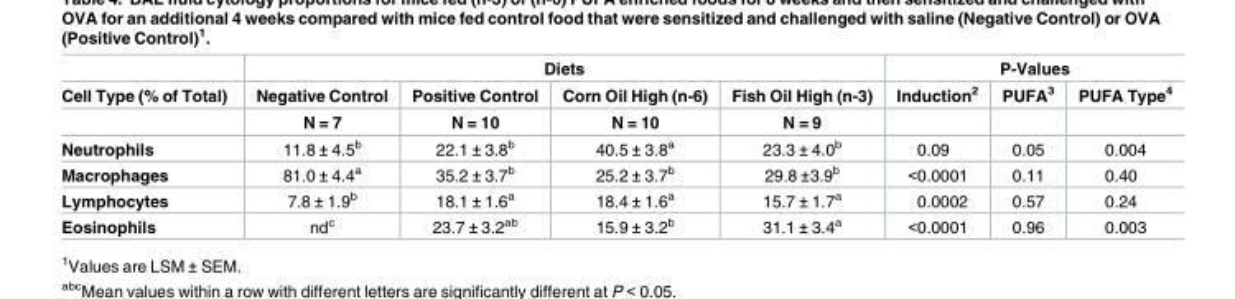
<table><thead><tr><td rowspan="3">Cell Type (% of Total)</td><td colspan="4">Diets</td><td colspan="3">P-Values</td></tr><tr><td rowspan="2">Negative Control N = 7</td><td rowspan="2">Positive Control N = 10</td><td rowspan="2">Corn Oil High (n-6) N = 10</td><td rowspan="2">Fish Oil High (n-3) N = 9</td><td rowspan="2">Induction<sup>2</sup></td><td rowspan="2">PUFA<sup>3</sup></td><td rowspan="2">PUFA Type<sup>4</sup></td></tr><tr></tr></thead><tbody><tr><td>Neutrophils</td><td>11.8 ± 4.5<sup>b</sup></td><td>22.1 ± 3.8<sup>b</sup></td><td>40.5 ± 3.8<sup>a</sup></td><td>23.3 ± 4.0<sup>b</sup></td><td>0.09</td><td>0.05</td><td>0.004</td></tr><tr><td>Macrophages</td><td>81.0 ± 4.4<sup>a</sup></td><td>35.2 ± 3.7<sup>b</sup></td><td>25.2 ± 3.7<sup>b</sup></td><td>29.8 ±3.9<sup>b</sup></td><td>&lt;0.0001</td><td>0.11</td><td>0.40</td></tr><tr><td>Lymphocytes</td><td>7.8 ± 1.9<sup>b</sup></td><td>18.1 ± 1.6<sup>a</sup></td><td>18.4 ± 1.6<sup>a</sup></td><td>15.7 ± 1.7<sup>a</sup></td><td>0.0002</td><td>0.57</td><td>0.24</td></tr><tr><td>Eosinophils</td><td>nd<sup>c</sup></td><td>23.7 ± 3.2<sup>ab</sup></td><td>15.9 ± 3.2<sup>b</sup></td><td>31.1 ± 3.4<sup>a</sup></td><td>&lt;0.0001</td><td>0.96</td><td>0.003</td></tr></tbody></table>